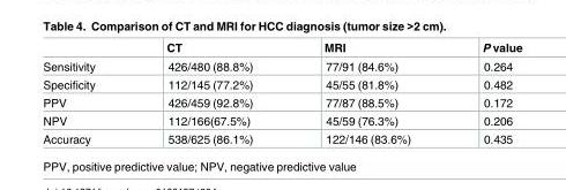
<table><thead><tr><td></td><td>CT</td><td>MRI</td><td>P value</td></tr></thead><tbody><tr><td>Sensitivity</td><td>426/480 (88.8%)</td><td>77/91 (84.6%)</td><td>0.264</td></tr><tr><td>Specificity</td><td>112/145 (77.2%)</td><td>45/55 (81.8%)</td><td>0.482</td></tr><tr><td>PPV</td><td>426/459 (92.8%)</td><td>77/87 (88.5%)</td><td>0.172</td></tr><tr><td>NPV</td><td>112/166(67.5%)</td><td>45/59 (76.3%)</td><td>0.206</td></tr><tr><td>Accuracy</td><td>538/625 (86.1%)</td><td>122/146 (83.6%)</td><td>0.435</td></tr></tbody></table>